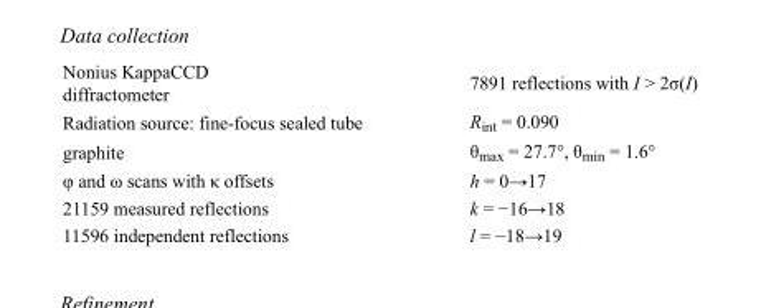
<table><tbody><tr><td>Nonius KappaCCD diffractometer</td><td>7891 reflections with I &gt; 2σ(I)</td></tr><tr><td>Radiation source: fine-focus sealed tube</td><td>R<sub>int</sub> = 0.090</td></tr><tr><td>graphite</td><td>θ<sub>max</sub> = 27.7°, θ<sub>min</sub> = 1.6°</td></tr><tr><td>φ and ω scans with κ offsets</td><td>h = 0→17</td></tr><tr><td>21159 measured reflections</td><td>k = −16→18</td></tr><tr><td>11596 independent reflections</td><td>l = −18→19</td></tr></tbody></table>